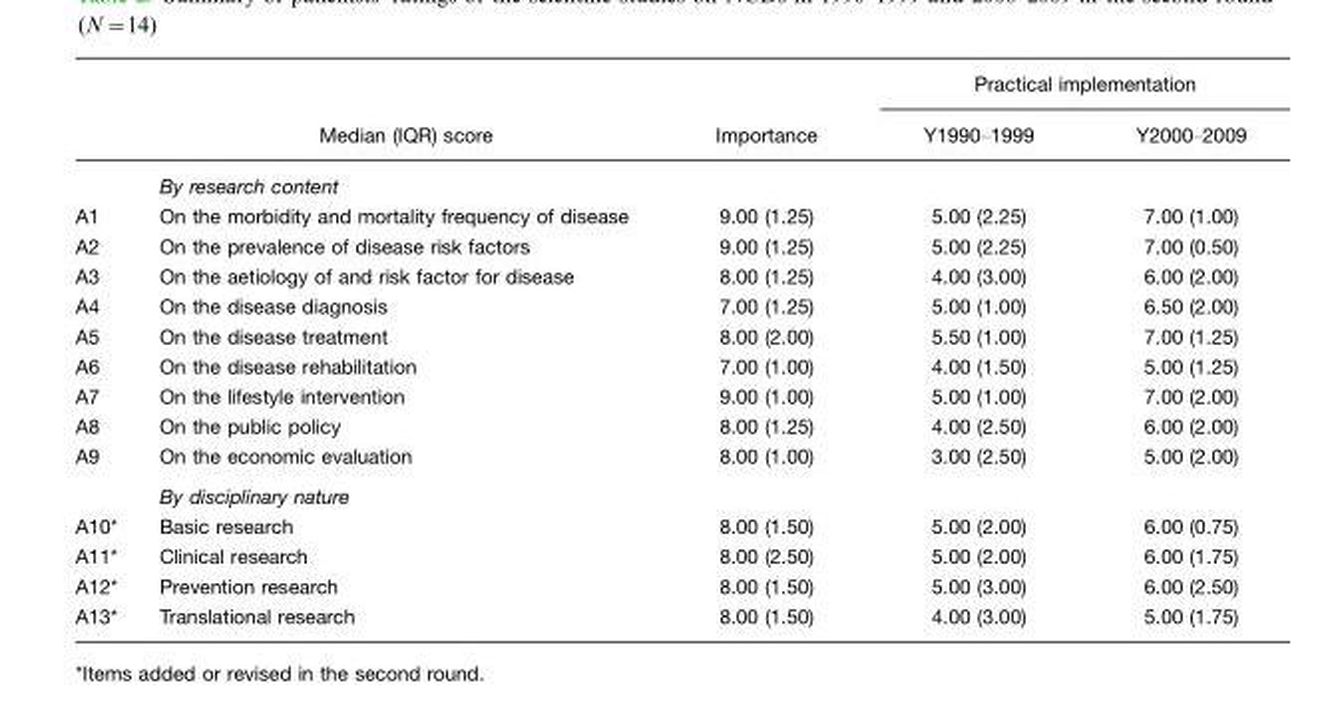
<table><thead><tr><td rowspan="2"></td><td rowspan="2">Median (IQR) score</td><td rowspan="2">Importance</td><td colspan="2">Practical implementation</td></tr><tr><td>Y1990–1999</td><td>Y2000–2009</td></tr></thead><tbody><tr><td></td><td>By research content</td><td></td><td></td><td></td></tr><tr><td>A1</td><td>On the morbidity and mortality frequency of disease</td><td>9.00 (1.25)</td><td>5.00 (2.25)</td><td>7.00 (1.00)</td></tr><tr><td>A2</td><td>On the prevalence of disease risk factors</td><td>9.00 (1.25)</td><td>5.00 (2.25)</td><td>7.00 (0.50)</td></tr><tr><td>A3</td><td>On the aetiology of and risk factor for disease</td><td>8.00 (1.25)</td><td>4.00 (3.00)</td><td>6.00 (2.00)</td></tr><tr><td>A4</td><td>On the disease diagnosis</td><td>7.00 (1.25)</td><td>5.00 (1.00)</td><td>6.50 (2.00)</td></tr><tr><td>A5</td><td>On the disease treatment</td><td>8.00 (2.00)</td><td>5.50 (1.00)</td><td>7.00 (1.25)</td></tr><tr><td>A6</td><td>On the disease rehabilitation</td><td>7.00 (1.00)</td><td>4.00 (1.50)</td><td>5.00 (1.25)</td></tr><tr><td>A7</td><td>On the lifestyle intervention</td><td>9.00 (1.00)</td><td>5.00 (1.00)</td><td>7.00 (2.00)</td></tr><tr><td>A8</td><td>On the public policy</td><td>8.00 (1.25)</td><td>4.00 (2.50)</td><td>6.00 (2.00)</td></tr><tr><td rowspan="2">A9</td><td>On the economic evaluation</td><td>8.00 (1.00)</td><td>3.00 (2.50)</td><td>5.00 (2.00)</td></tr><tr><td>By disciplinary nature</td><td></td><td></td><td></td></tr><tr><td>A10*</td><td>Basic research</td><td>8.00 (1.50)</td><td>5.00 (2.00)</td><td>6.00 (0.75)</td></tr><tr><td>A11*</td><td>Clinical research</td><td>8.00 (2.50)</td><td>5.00 (2.00)</td><td>6.00 (1.75)</td></tr><tr><td>A12*</td><td>Prevention research</td><td>8.00 (1.50)</td><td>5.00 (3.00)</td><td>6.00 (2.50)</td></tr><tr><td>A13*</td><td>Translational research</td><td>8.00 (1.50)</td><td>4.00 (3.00)</td><td>5.00 (1.75)</td></tr></tbody></table>